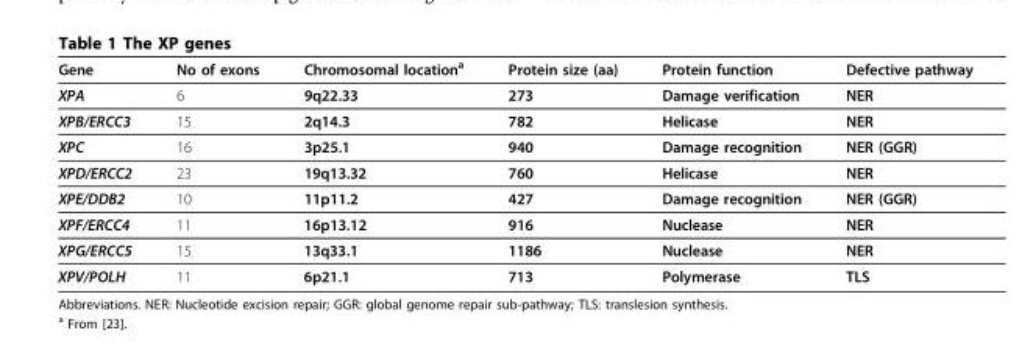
<table><thead><tr><td>Gene</td><td>No of exons</td><td>Chromosomal location<sup>a</sup></td><td>Protein size (aa)</td><td>Protein function</td><td>Defective pathway</td></tr></thead><tbody><tr><td>XPA</td><td>6</td><td>9q22.33</td><td>273</td><td>Damage verification</td><td>NER</td></tr><tr><td>XPB/ERCC3</td><td>15</td><td>2q14.3</td><td>782</td><td>Helicase</td><td>NER</td></tr><tr><td>XPC</td><td>16</td><td>3p25.1</td><td>940</td><td>Damage recognition</td><td>NER (GGR)</td></tr><tr><td>XPD/ERCC2</td><td>23</td><td>19q13.32</td><td>760</td><td>Helicase</td><td>NER</td></tr><tr><td>XPE/DDB2</td><td>10</td><td>11p11.2</td><td>427</td><td>Damage recognition</td><td>NER (GGR)</td></tr><tr><td>XPF/ERCC4</td><td>11</td><td>16p13.12</td><td>916</td><td>Nuclease</td><td>NER</td></tr><tr><td>XPG/ERCC5</td><td>15</td><td>13q33.1</td><td>1186</td><td>Nuclease</td><td>NER</td></tr><tr><td>XPV/POLH</td><td>11</td><td>6p21.1</td><td>713</td><td>Polymerase</td><td>TLS</td></tr></tbody></table>